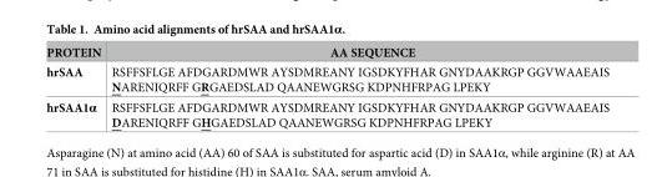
<table><thead><tr><td>PROTEIN</td><td>AA SEQUENCE</td></tr></thead><tbody><tr><td>hrSAA</td><td>RSFFSFLGE AFDGARDMWR AYSDMREANY IGSDKYFHAR GNYDAAKRGP GGVWAAEAIS NARENIQRFF GRGAEDSLAD QAANEWGRSG KDPNHFRPAG LPEKY</td></tr><tr><td>hrSAA1α</td><td>RSFFSFLGE AFDGARDMWR AYSDMREANY IGSDKYFHAR GNYDAAKRGP GGVWAAEAIS DARENIQRFF GHGAEDSLAD QAANEWGRSG KDPNHFRPAG LPEKY</td></tr></tbody></table>